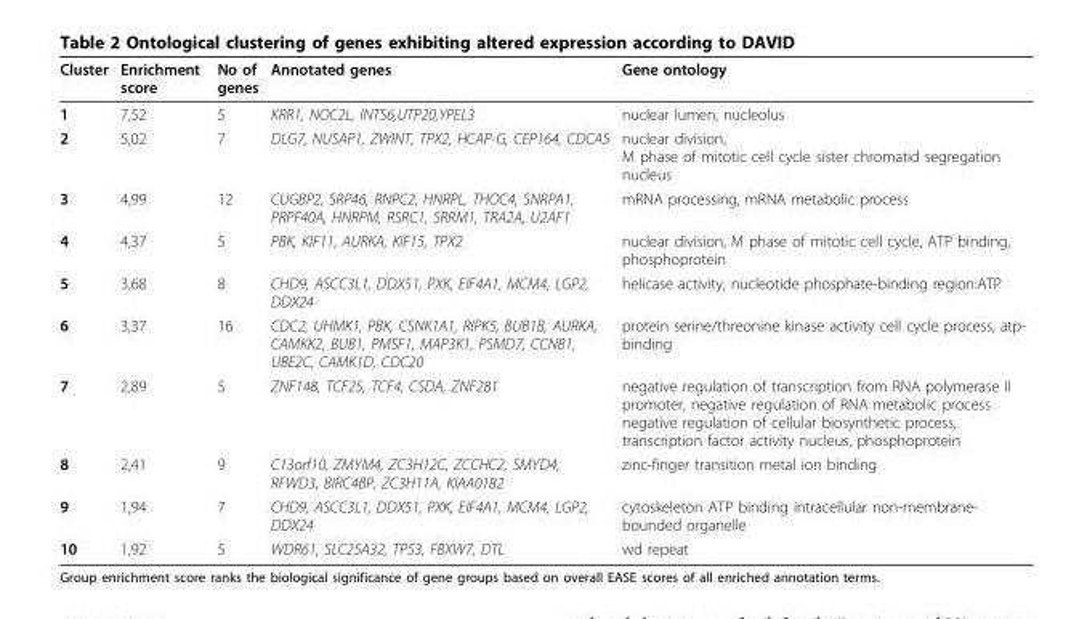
<table><thead><tr><td>Cluster</td><td>Enrichment score</td><td>No of genes</td><td>Annotated genes</td><td>Gene ontology</td></tr></thead><tbody><tr><td>1</td><td>7,52</td><td>5</td><td>KRR1, NOC2L, INTS6,UTP20,YPEL3</td><td>nuclear lumen, nucleolus</td></tr><tr><td>2</td><td>5,02</td><td>7</td><td>DLG7, NUSAP1, ZWINT, TPX2, HCAP-G, CEP164, CDCA5</td><td>nuclear division, M phase of mitotic cell cycle sister chromatid segregation nucleus</td></tr><tr><td>3</td><td>4,99</td><td>12</td><td>CUGBP2, SRP46, RNPC2, HNRPL, THOC4, SNRPA1, PRPF40A, HNRPM, RSRC1, SRRM1, TRA2A, U2AF1</td><td>mRNA processing, mRNA metabolic process</td></tr><tr><td>4</td><td>4,37</td><td>5</td><td>PBK, KIF11, AURKA, KIF15, TPX2</td><td>nuclear division, M phase of mitotic cell cycle, ATP binding, phosphoprotein</td></tr><tr><td>5</td><td>3,68</td><td>8</td><td>CHD9, ASCC3L1, DDX51, PXK, EIF4A1, MCM4, LGP2, DDX24</td><td>helicase activity, nucleotide phosphate-binding region:ATP</td></tr><tr><td>6</td><td>3,37</td><td>16</td><td>CDC2, UHMK1, PBK, CSNK1A1, RIPK5, BUB1B, AURKA, CAMKK2, BUB1, PMSF1, MAP3K1, PSMD7, CCNB1, UBE2C, CAMK1D, CDC20</td><td>protein serine/threonine kinase activity cell cycle process, atp- binding</td></tr><tr><td>7</td><td>2,89</td><td>5</td><td>ZNF148, TCF25, TCF4, CSDA, ZNF281</td><td>negative regulation of transcription from RNA polymerase II promoter, negative regulation of RNA metabolic process negative regulation of cellular biosynthetic process, transcription factor activity nucleus, phosphoprotein</td></tr><tr><td>8</td><td>2,41</td><td>9</td><td>C13orf10, ZMYM4, ZC3H12C, ZCCHC2, SMYD4, RFWD3, BIRC4BP, ZC3H11A, KIAA0182</td><td>zinc-finger transition metal ion binding</td></tr><tr><td>9</td><td>1,94</td><td>7</td><td>CHD9, ASCC3L1, DDX51, PXK, EIF4A1, MCM4, LGP2, DDX24</td><td>cytoskeleton ATP binding intracellular non-membrane- bounded organelle</td></tr><tr><td>10</td><td>1,92</td><td>5</td><td>WDR61, SLC25A32, TP53, FBXW7, DTL</td><td>wd repeat</td></tr></tbody></table>